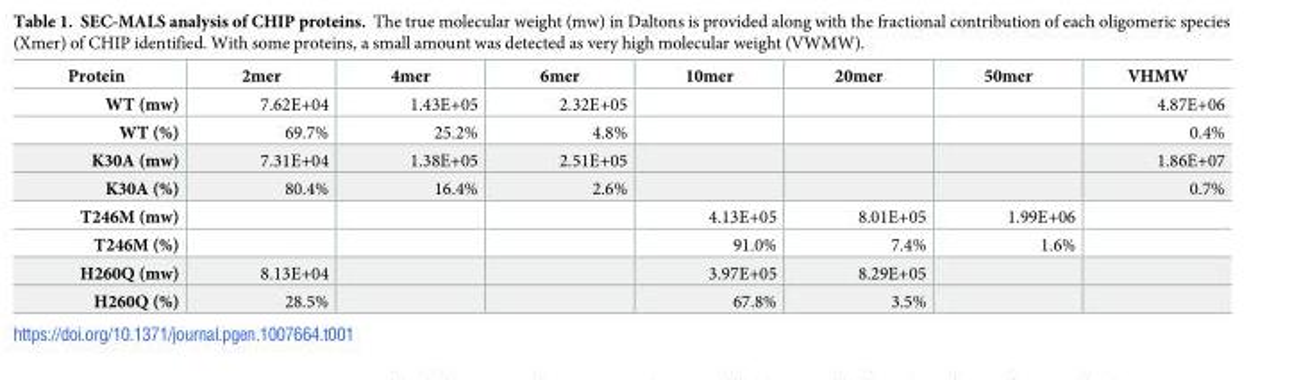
<table><thead><tr><td>Protein</td><td>2mer</td><td>4mer</td><td>6mer</td><td>10mer</td><td>20mer</td><td>50mer</td><td>VHMW</td></tr></thead><tbody><tr><td>WT (mw)</td><td>7.62E+04</td><td>1.43E+05</td><td>2.32E+05</td><td></td><td></td><td></td><td>4.87E+06</td></tr><tr><td>WT (%)</td><td>69.7%</td><td>25.2%</td><td>4.8%</td><td></td><td></td><td></td><td>0.4%</td></tr><tr><td>K30A (mw)</td><td>7.31E+04</td><td>1.38E+05</td><td>2.51E+05</td><td></td><td></td><td></td><td>1.86E+07</td></tr><tr><td>K30A (%)</td><td>80.4%</td><td>16.4%</td><td>2.6%</td><td></td><td></td><td></td><td>0.7%</td></tr><tr><td>T246M (mw)</td><td></td><td></td><td></td><td>4.13E+05</td><td>8.01E+05</td><td>1.99E+06</td><td></td></tr><tr><td>T246M (%)</td><td></td><td></td><td></td><td>91.0%</td><td>7.4%</td><td>1.6%</td><td></td></tr><tr><td>H260Q (mw)</td><td>8.13E+04</td><td></td><td></td><td>3.97E+05</td><td>8.29E+05</td><td></td><td></td></tr><tr><td>H260Q (%)</td><td>28.5%</td><td></td><td></td><td>67.8%</td><td>3.5%</td><td></td><td></td></tr></tbody></table>